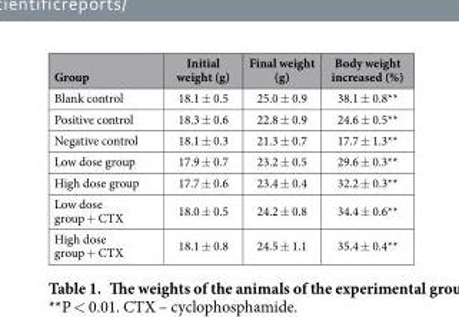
<table><thead><tr><td>Group</td><td>Initial weight (g)</td><td>Final weight (g)</td><td>Body weight increased (%)</td></tr></thead><tbody><tr><td>Blank control</td><td>18.1 ± 0.5</td><td>25.0 ± 0.9</td><td>38.1 ± 0.8**</td></tr><tr><td>Positive control</td><td>18.3 ± 0.6</td><td>22.8 ± 0.9</td><td>24.6 ± 0.5**</td></tr><tr><td>Negative control</td><td>18.1 ± 0.3</td><td>21.3 ± 0.7</td><td>17.7 ± 1.3**</td></tr><tr><td>Low dose group</td><td>17.9 ± 0.7</td><td>23.2 ± 0.5</td><td>29.6 ± 0.3**</td></tr><tr><td>High dose group</td><td>17.7 ± 0.6</td><td>23.4 ± 0.4</td><td>32.2 ± 0.3**</td></tr><tr><td>Low dose group + CTX</td><td>18.0 ± 0.5</td><td>24.2 ± 0.8</td><td>34.4 ± 0.6**</td></tr><tr><td>High dose group + CTX</td><td>18.1 ± 0.8</td><td>24.5 ± 1.1</td><td>35.4 ± 0.4**</td></tr></tbody></table>